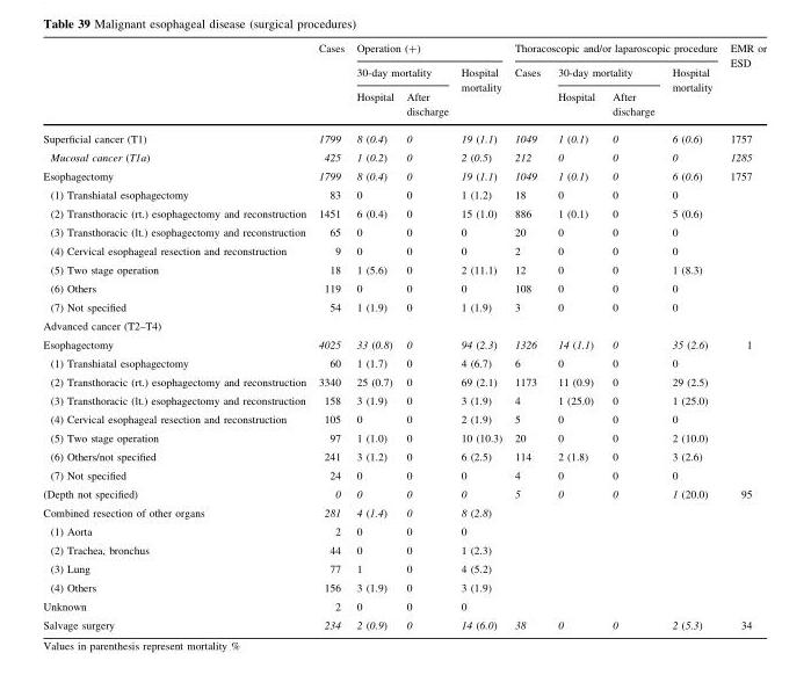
<table><thead><tr><td rowspan="3"></td><td rowspan="3">Cases</td><td colspan="3">Operation (+)</td><td colspan="4">Thoracoscopic and/or laparoscopic procedure</td><td rowspan="3">EMR or ESD</td></tr><tr><td colspan="2">30-day mortality</td><td rowspan="2">Hospital mortality</td><td rowspan="2">Cases</td><td colspan="2">30-day mortality</td><td rowspan="2">Hospital mortality</td></tr><tr><td>Hospital</td><td>After discharge</td><td>Hospital</td><td>After discharge</td></tr></thead><tbody><tr><td>Superficial cancer (T1)</td><td>1799</td><td>8 (0.4)</td><td>0</td><td>19 (1.1)</td><td>1049</td><td>1 (0.1)</td><td>0</td><td>6 (0.6)</td><td>1757</td></tr><tr><td>Mucosal cancer (T1a)</td><td>425</td><td>1 (0.2)</td><td>0</td><td>2 (0.5)</td><td>212</td><td>0</td><td>0</td><td>0</td><td>1285</td></tr><tr><td>Esophagectomy</td><td>1799</td><td>8 (0.4)</td><td>0</td><td>19 (1.1)</td><td>1049</td><td>1 (0.1)</td><td>0</td><td>6 (0.6)</td><td>1757</td></tr><tr><td>(1) Transhiatal esophagectomy</td><td>83</td><td>0</td><td>0</td><td>1 (1.2)</td><td>18</td><td>0</td><td>0</td><td>0</td><td></td></tr><tr><td>(2) Transthoracic (rt.) esophagectomy and reconstruction</td><td>1451</td><td>6 (0.4)</td><td>0</td><td>15 (1.0)</td><td>886</td><td>1 (0.1)</td><td>0</td><td>5 (0.6)</td><td></td></tr><tr><td>(3) Transthoracic (lt.) esophagectomy and reconstruction</td><td>65</td><td>0</td><td>0</td><td>0</td><td>20</td><td>0</td><td>0</td><td>0</td><td></td></tr><tr><td>(4) Cervical esophageal resection and reconstruction</td><td>9</td><td>0</td><td>0</td><td>0</td><td>2</td><td>0</td><td>0</td><td>0</td><td></td></tr><tr><td>(5) Two stage operation</td><td>18</td><td>1 (5.6)</td><td>0</td><td>2 (11.1)</td><td>12</td><td>0</td><td>0</td><td>1 (8.3)</td><td></td></tr><tr><td>(6) Others</td><td>119</td><td>0</td><td>0</td><td>0</td><td>108</td><td>0</td><td>0</td><td>0</td><td></td></tr><tr><td>(7) Not specified</td><td>54</td><td>1 (1.9)</td><td>0</td><td>1 (1.9)</td><td>3</td><td>0</td><td>0</td><td>0</td><td></td></tr><tr><td colspan="10">Advanced cancer (T2–T4)</td></tr><tr><td>Esophagectomy</td><td>4025</td><td>33 (0.8)</td><td>0</td><td>94 (2.3)</td><td>1326</td><td>14 (1.1)</td><td>0</td><td>35 (2.6)</td><td>1</td></tr><tr><td>(1) Transhiatal esophagectomy</td><td>60</td><td>1 (1.7)</td><td>0</td><td>4 (6.7)</td><td>6</td><td>0</td><td>0</td><td>0</td><td></td></tr><tr><td>(2) Transthoracic (rt.) esophagectomy and reconstruction</td><td>3340</td><td>25 (0.7)</td><td>0</td><td>69 (2.1)</td><td>1173</td><td>11 (0.9)</td><td>0</td><td>29 (2.5)</td><td></td></tr><tr><td>(3) Transthoracic (lt.) esophagectomy and reconstruction</td><td>158</td><td>3 (1.9)</td><td>0</td><td>3 (1.9)</td><td>4</td><td>1 (25.0)</td><td>0</td><td>1 (25.0)</td><td></td></tr><tr><td>(4) Cervical esophageal resection and reconstruction</td><td>105</td><td>0</td><td>0</td><td>2 (1.9)</td><td>5</td><td>0</td><td>0</td><td>0</td><td></td></tr><tr><td>(5) Two stage operation</td><td>97</td><td>1 (1.0)</td><td>0</td><td>10 (10.3)</td><td>20</td><td>0</td><td>0</td><td>2 (10.0)</td><td></td></tr><tr><td>(6) Others/not specified</td><td>241</td><td>3 (1.2)</td><td>0</td><td>6 (2.5)</td><td>114</td><td>2 (1.8)</td><td>0</td><td>3 (2.6)</td><td></td></tr><tr><td>(7) Not specified</td><td>24</td><td>0</td><td>0</td><td>0</td><td>4</td><td>0</td><td>0</td><td>0</td><td></td></tr><tr><td>(Depth not specified)</td><td>0</td><td>0</td><td>0</td><td>0</td><td>5</td><td>0</td><td>0</td><td>1 (20.0)</td><td>95</td></tr><tr><td>Combined resection of other organs</td><td>281</td><td>4 (1.4)</td><td>0</td><td>8 (2.8)</td><td></td><td></td><td></td><td></td><td></td></tr><tr><td>(1) Aorta</td><td>2</td><td>0</td><td>0</td><td>0</td><td></td><td></td><td></td><td></td><td></td></tr><tr><td>(2) Trachea, bronchus</td><td>44</td><td>0</td><td>0</td><td>1 (2.3)</td><td></td><td></td><td></td><td></td><td></td></tr><tr><td>(3) Lung</td><td>77</td><td>1</td><td>0</td><td>4 (5.2)</td><td></td><td></td><td></td><td></td><td></td></tr><tr><td>(4) Others</td><td>156</td><td>3 (1.9)</td><td>0</td><td>3 (1.9)</td><td></td><td></td><td></td><td></td><td></td></tr><tr><td>Unknown</td><td>2</td><td>0</td><td>0</td><td>0</td><td></td><td></td><td></td><td></td><td></td></tr><tr><td>Salvage surgery</td><td>234</td><td>2 (0.9)</td><td>0</td><td>14 (6.0)</td><td>38</td><td>0</td><td>0</td><td>2 (5.3)</td><td>34</td></tr></tbody></table>